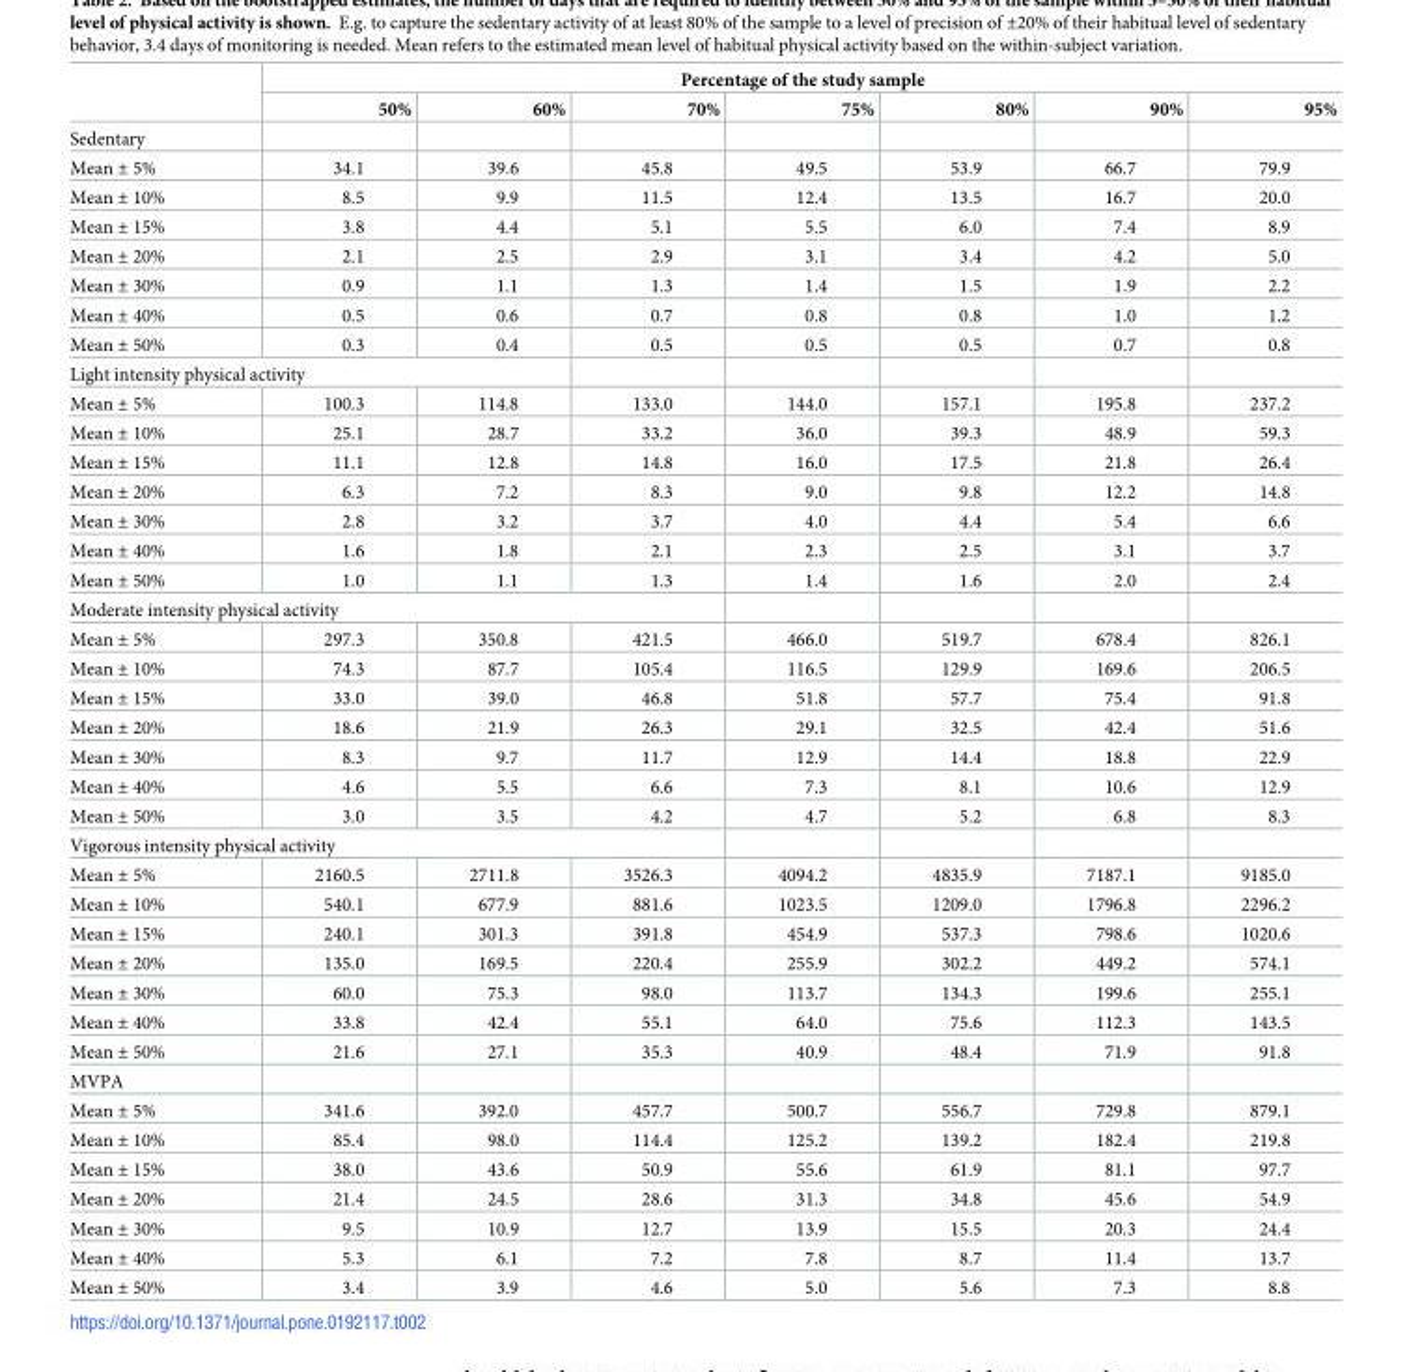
<table><thead><tr><td rowspan="2"></td><td colspan="7">Percentage of the study sample</td></tr><tr><td>50%</td><td>60%</td><td>70%</td><td>75%</td><td>80%</td><td>90%</td><td>95%</td></tr></thead><tbody><tr><td colspan="8">Sedentary</td></tr><tr><td>Mean ± 5%</td><td>34.1</td><td>39.6</td><td>45.8</td><td>49.5</td><td>53.9</td><td>66.7</td><td>79.9</td></tr><tr><td>Mean ± 10%</td><td>8.5</td><td>9.9</td><td>11.5</td><td>12.4</td><td>13.5</td><td>16.7</td><td>20.0</td></tr><tr><td>Mean ± 15%</td><td>3.8</td><td>4.4</td><td>5.1</td><td>5.5</td><td>6.0</td><td>7.4</td><td>8.9</td></tr><tr><td>Mean ± 20%</td><td>2.1</td><td>2.5</td><td>2.9</td><td>3.1</td><td>3.4</td><td>4.2</td><td>5.0</td></tr><tr><td>Mean ± 30%</td><td>0.9</td><td>1.1</td><td>1.3</td><td>1.4</td><td>1.5</td><td>1.9</td><td>2.2</td></tr><tr><td>Mean ± 40%</td><td>0.5</td><td>0.6</td><td>0.7</td><td>0.8</td><td>0.8</td><td>1.0</td><td>1.2</td></tr><tr><td>Mean ± 50%</td><td>0.3</td><td>0.4</td><td>0.5</td><td>0.5</td><td>0.5</td><td>0.7</td><td>0.8</td></tr><tr><td colspan="8">Light intensity physical activity</td></tr><tr><td>Mean ± 5%</td><td>100.3</td><td>114.8</td><td>133.0</td><td>144.0</td><td>157.1</td><td>195.8</td><td>237.2</td></tr><tr><td>Mean ± 10%</td><td>25.1</td><td>28.7</td><td>33.2</td><td>36.0</td><td>39.3</td><td>48.9</td><td>59.3</td></tr><tr><td>Mean ± 15%</td><td>11.1</td><td>12.8</td><td>14.8</td><td>16.0</td><td>17.5</td><td>21.8</td><td>26.4</td></tr><tr><td>Mean ± 20%</td><td>6.3</td><td>7.2</td><td>8.3</td><td>9.0</td><td>9.8</td><td>12.2</td><td>14.8</td></tr><tr><td>Mean ± 30%</td><td>2.8</td><td>3.2</td><td>3.7</td><td>4.0</td><td>4.4</td><td>5.4</td><td>6.6</td></tr><tr><td>Mean ± 40%</td><td>1.6</td><td>1.8</td><td>2.1</td><td>2.3</td><td>2.5</td><td>3.1</td><td>3.7</td></tr><tr><td>Mean ± 50%</td><td>1.0</td><td>1.1</td><td>1.3</td><td>1.4</td><td>1.6</td><td>2.0</td><td>2.4</td></tr><tr><td colspan="8">Moderate intensity physical activity</td></tr><tr><td>Mean ± 5%</td><td>297.3</td><td>350.8</td><td>421.5</td><td>466.0</td><td>519.7</td><td>678.4</td><td>826.1</td></tr><tr><td>Mean ± 10%</td><td>74.3</td><td>87.7</td><td>105.4</td><td>116.5</td><td>129.9</td><td>169.6</td><td>206.5</td></tr><tr><td>Mean ± 15%</td><td>33.0</td><td>39.0</td><td>46.8</td><td>51.8</td><td>57.7</td><td>75.4</td><td>91.8</td></tr><tr><td>Mean ± 20%</td><td>18.6</td><td>21.9</td><td>26.3</td><td>29.1</td><td>32.5</td><td>42.4</td><td>51.6</td></tr><tr><td>Mean ± 30%</td><td>8.3</td><td>9.7</td><td>11.7</td><td>12.9</td><td>14.4</td><td>18.8</td><td>22.9</td></tr><tr><td>Mean ± 40%</td><td>4.6</td><td>5.5</td><td>6.6</td><td>7.3</td><td>8.1</td><td>10.6</td><td>12.9</td></tr><tr><td>Mean ± 50%</td><td>3.0</td><td>3.5</td><td>4.2</td><td>4.7</td><td>5.2</td><td>6.8</td><td>8.3</td></tr><tr><td colspan="8">Vigorous intensity physical activity</td></tr><tr><td>Mean ± 5%</td><td>2160.5</td><td>2711.8</td><td>3526.3</td><td>4094.2</td><td>4835.9</td><td>7187.1</td><td>9185.0</td></tr><tr><td>Mean ± 10%</td><td>540.1</td><td>677.9</td><td>881.6</td><td>1023.5</td><td>1209.0</td><td>1796.8</td><td>2296.2</td></tr><tr><td>Mean ± 15%</td><td>240.1</td><td>301.3</td><td>391.8</td><td>454.9</td><td>537.3</td><td>798.6</td><td>1020.6</td></tr><tr><td>Mean ± 20%</td><td>135.0</td><td>169.5</td><td>220.4</td><td>255.9</td><td>302.2</td><td>449.2</td><td>574.1</td></tr><tr><td>Mean ± 30%</td><td>60.0</td><td>75.3</td><td>98.0</td><td>113.7</td><td>134.3</td><td>199.6</td><td>255.1</td></tr><tr><td>Mean ± 40%</td><td>33.8</td><td>42.4</td><td>55.1</td><td>64.0</td><td>75.6</td><td>112.3</td><td>143.5</td></tr><tr><td>Mean ± 50%</td><td>21.6</td><td>27.1</td><td>35.3</td><td>40.9</td><td>48.4</td><td>71.9</td><td>91.8</td></tr><tr><td colspan="8">MVPA</td></tr><tr><td>Mean ± 5%</td><td>341.6</td><td>392.0</td><td>457.7</td><td>500.7</td><td>556.7</td><td>729.8</td><td>879.1</td></tr><tr><td>Mean ± 10%</td><td>85.4</td><td>98.0</td><td>114.4</td><td>125.2</td><td>139.2</td><td>182.4</td><td>219.8</td></tr><tr><td>Mean ± 15%</td><td>38.0</td><td>43.6</td><td>50.9</td><td>55.6</td><td>61.9</td><td>81.1</td><td>97.7</td></tr><tr><td>Mean ± 20%</td><td>21.4</td><td>24.5</td><td>28.6</td><td>31.3</td><td>34.8</td><td>45.6</td><td>54.9</td></tr><tr><td>Mean ± 30%</td><td>9.5</td><td>10.9</td><td>12.7</td><td>13.9</td><td>15.5</td><td>20.3</td><td>24.4</td></tr><tr><td>Mean ± 40%</td><td>5.3</td><td>6.1</td><td>7.2</td><td>7.8</td><td>8.7</td><td>11.4</td><td>13.7</td></tr><tr><td>Mean ± 50%</td><td>3.4</td><td>3.9</td><td>4.6</td><td>5.0</td><td>5.6</td><td>7.3</td><td>8.8</td></tr></tbody></table>